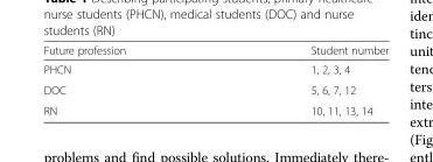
<table><thead><tr><td>Future profession</td><td>Student number</td></tr></thead><tbody><tr><td>PHCN</td><td>1, 2, 3, 4</td></tr><tr><td>DOC</td><td>5, 6, 7, 12</td></tr><tr><td>RN</td><td>10, 11, 13, 14</td></tr></tbody></table>